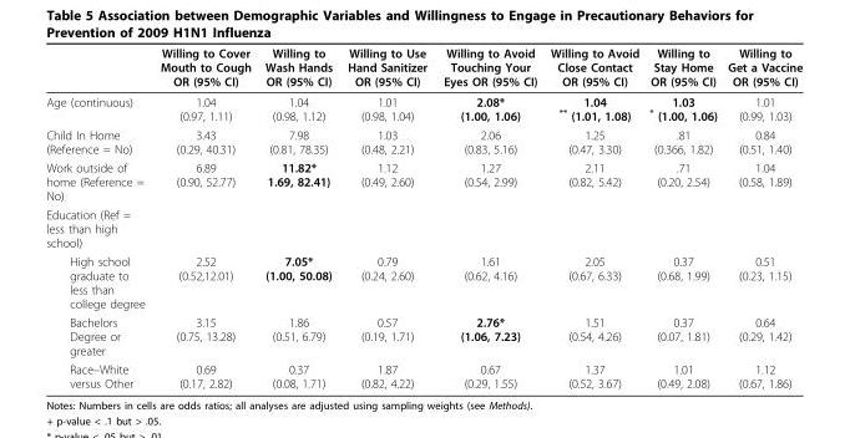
<table><thead><tr><td></td><td>Willing to Cover Mouth to Cough OR (95% CI)</td><td>Willing to Wash Hands OR (95% CI)</td><td>Willing to Use Hand Sanitizer OR (95% CI)</td><td>Willing to Avoid Touching Your Eyes OR (95% CI)</td><td>Willing to Avoid Close Contact OR (95% CI)</td><td>Willing to Stay Home OR (95% CI)</td><td>Willing to Get a Vaccine OR (95% CI)</td></tr></thead><tbody><tr><td>Age (continuous)</td><td>1.04 (0.97, 1.11)</td><td>1.04 (0.98, 1.12)</td><td>1.01 (0.98, 1.04)</td><td>2.08* (1.00, 1.06)</td><td>1.04 ** (1.01, 1.08)</td><td>1.03 * (1.00, 1.06)</td><td>1.01 (0.99, 1.03)</td></tr><tr><td>Child In Home (Reference = No)</td><td>3.43 (0.29, 40.31)</td><td>7.98 (0.81, 78.35)</td><td>1.03 (0.48, 2.21)</td><td>2.06 (0.83, 5.16)</td><td>1.25 (0.47, 3.30)</td><td>.81 (0.366, 1.82)</td><td>0.84 (0.51, 1.40)</td></tr><tr><td>Work outside of home (Reference = No)</td><td>6.89 (0.90, 52.77)</td><td>11.82* 1.69, 82.41)</td><td>1.12 (0.49, 2.60)</td><td>1.27 (0.54, 2.99)</td><td>2.11 (0.82, 5.42)</td><td>.71 (0.20, 2.54)</td><td>1.04 (0.58, 1.89)</td></tr><tr><td colspan="8">Education (Ref = less than high school)</td></tr><tr><td>High school graduate to less than college degree</td><td>2.52 (0.52,12.01)</td><td>7.05* (1.00, 50.08)</td><td>0.79 (0.24, 2.60)</td><td>1.61 (0.62, 4.16)</td><td>2.05 (0.67, 6.33)</td><td>0.37 (0.68, 1.99)</td><td>0.51 (0.23, 1.15)</td></tr><tr><td>Bachelors Degree or greater</td><td>3.15 (0.75, 13.28)</td><td>1.86 (0.51, 6.79)</td><td>0.57 (0.19, 1.71)</td><td>2.76* (1.06, 7.23)</td><td>1.51 (0.54, 4.26)</td><td>0.37 (0.07, 1.81)</td><td>0.64 (0.29, 1.42)</td></tr><tr><td>Race–White versus Other</td><td>0.69 (0.17, 2.82)</td><td>0.37 (0.08, 1.71)</td><td>1.87 (0.82, 4.22)</td><td>0.67 (0.29, 1.55)</td><td>1.37 (0.52, 3.67)</td><td>1.01 (0.49, 2.08)</td><td>1.12 (0.67, 1.86)</td></tr></tbody></table>